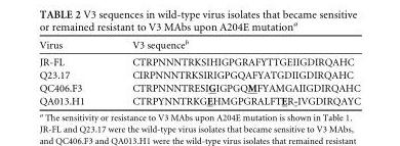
<table><thead><tr><td>Virus</td><td>V3 sequence<sup>b</sup></td></tr></thead><tbody><tr><td>JR-FL</td><td>CTRPNNNTRKSIHIGPGRAFYTTGEIIGDIRQAHC</td></tr><tr><td>Q23.17</td><td>CIRPNNNTRKSIRIGPGQAFYATGDIIGDIRQAHC</td></tr><tr><td>QC406.F3</td><td>CTRPNNNTRESIGIGPGQMFYAMGAIIGDIRQAHC</td></tr><tr><td>QA013.H1</td><td>CTRPYNNTRKGEHMGPGRALFTER-IVGDIRQAYC</td></tr></tbody></table>